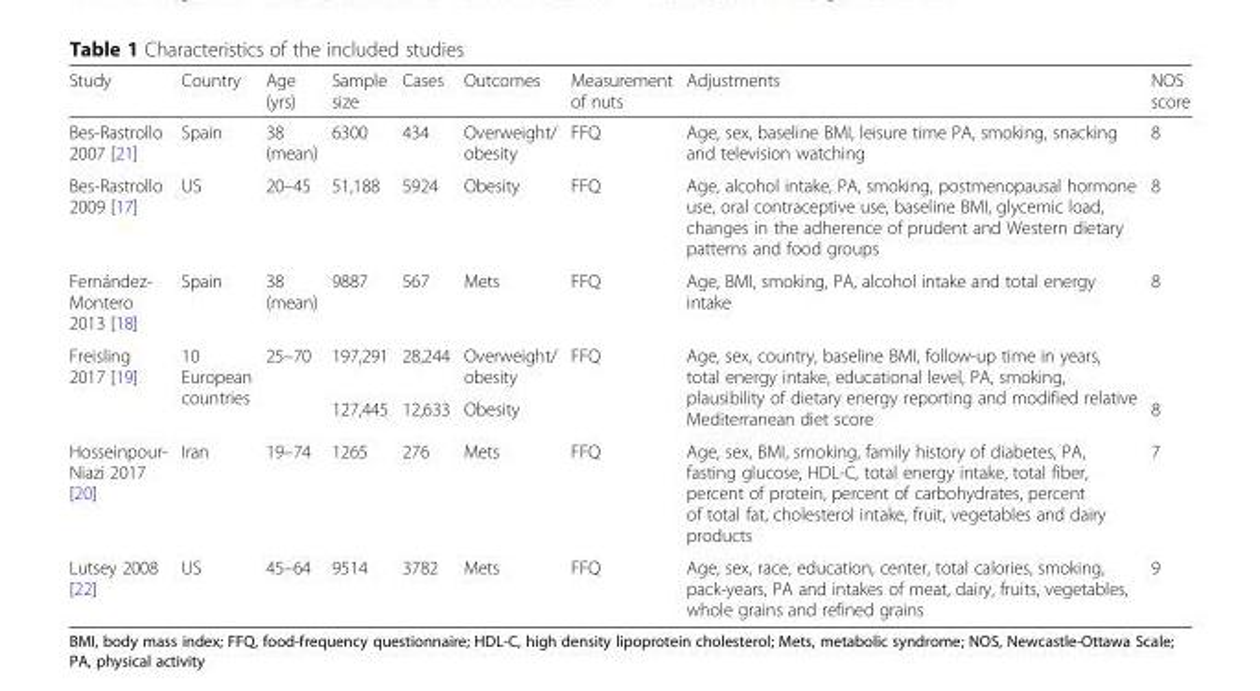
<table><thead><tr><td>Study</td><td>Country</td><td>Age (yrs)</td><td>Sample size</td><td>Cases</td><td>Outcomes</td><td>Measurement of nuts</td><td>Adjustments</td><td>NOS score</td></tr></thead><tbody><tr><td>Bes-Rastrollo 2007 [21]</td><td>Spain</td><td>38 (mean)</td><td>6300</td><td>434</td><td>Overweight/ obesity</td><td>FFQ</td><td>Age, sex, baseline BMI, leisure time PA, smoking, snacking and television watching</td><td>8</td></tr><tr><td>Bes-Rastrollo 2009 [17]</td><td>US</td><td>20–45</td><td>51,188</td><td>5924</td><td>Obesity</td><td>FFQ</td><td>Age, alcohol intake, PA, smoking, postmenopausal hormone use, oral contraceptive use, baseline BMI, glycemic load, changes in the adherence of prudent and Western dietary patterns and food groups</td><td>8</td></tr><tr><td>Fernández- Montero 2013 [18]</td><td>Spain</td><td>38 (mean)</td><td>9887</td><td>567</td><td>Mets</td><td>FFQ</td><td>Age, BMI, smoking, PA, alcohol intake and total energy intake</td><td>8</td></tr><tr><td rowspan="2">Freisling 2017 [19]</td><td rowspan="2">10 European countries</td><td rowspan="2">25–70</td><td>197,291</td><td>28,244</td><td>Overweight/ obesity</td><td rowspan="2">FFQ</td><td rowspan="2">Age, sex, country, baseline BMI, follow-up time in years, total energy intake, educational level, PA, smoking, plausibility of dietary energy reporting and modified relative Mediterranean diet score</td><td></td></tr><tr><td>127,445</td><td>12,633</td><td>Obesity</td><td>8</td></tr><tr><td>Hosseinpour- Niazi 2017 [20]</td><td>Iran</td><td>19–74</td><td>1265</td><td>276</td><td>Mets</td><td>FFQ</td><td>Age, sex, BMI, smoking, family history of diabetes, PA, fasting glucose, HDL-C, total energy intake, total fiber, percent of protein, percent of carbohydrates, percent of total fat, cholesterol intake, fruit, vegetables and dairy products</td><td>7</td></tr><tr><td>Lutsey 2008 [22]</td><td>US</td><td>45–64</td><td>9514</td><td>3782</td><td>Mets</td><td>FFQ</td><td>Age, sex, race, education, center, total calories, smoking, pack-years, PA and intakes of meat, dairy, fruits, vegetables, whole grains and refined grains</td><td>9</td></tr></tbody></table>